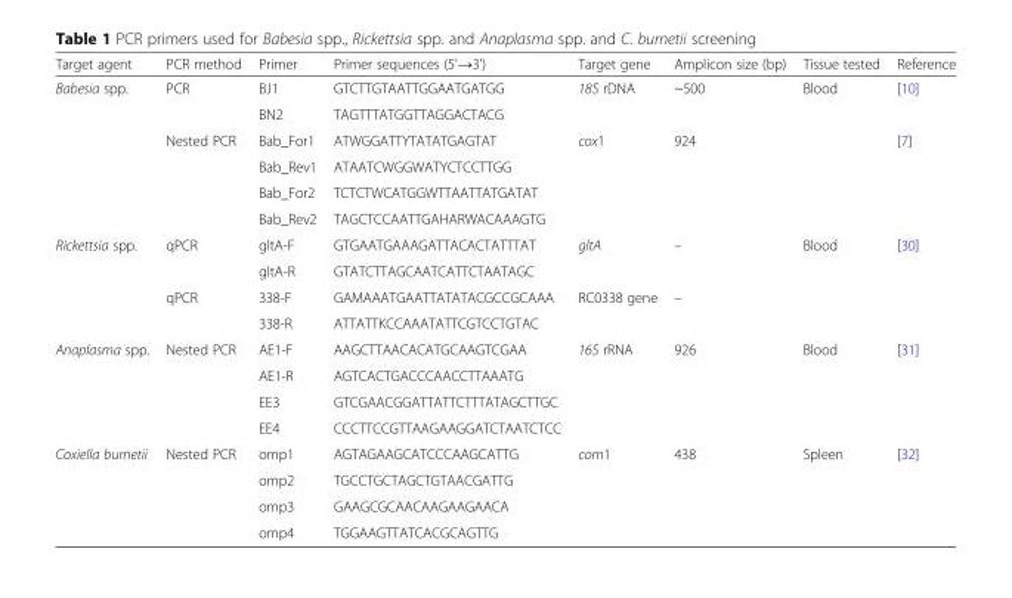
<table><thead><tr><td>Target agent</td><td>PCR method</td><td>Primer</td><td>Primer sequences (5&#x27;→3&#x27;)</td><td>Target gene</td><td>Amplicon size (bp)</td><td>Tissue tested</td><td>Reference</td></tr></thead><tbody><tr><td rowspan="6">Babesia spp.</td><td rowspan="2">PCR</td><td>BJ1</td><td>GTCTTGTAATTGGAATGATGG</td><td rowspan="2">18S rDNA</td><td rowspan="2">~500</td><td rowspan="6">Blood</td><td rowspan="2">[10]</td></tr><tr><td>BN2</td><td>TAGTTTATGGTTAGGACTACG</td></tr><tr><td rowspan="4">Nested PCR</td><td>Bab_For1</td><td>ATWGGATTYTATATGAGTAT</td><td rowspan="4">cox1</td><td rowspan="4">924</td><td rowspan="4">[7]</td></tr><tr><td>Bab_Rev1</td><td>ATAATCWGGWATYCTCCTTGG</td></tr><tr><td>Bab_For2</td><td>TCTCTWCATGGWTTAATTATGATAT</td></tr><tr><td>Bab_Rev2</td><td>TAGCTCCAATTGAHARWACAAAGTG</td></tr><tr><td rowspan="4">Rickettsia spp.</td><td rowspan="2">qPCR</td><td>gltA-F</td><td>GTGAATGAAAGATTACACTATTTAT</td><td rowspan="2">gltA</td><td rowspan="2">–</td><td rowspan="4">Blood</td><td rowspan="4">[30]</td></tr><tr><td>gltA-R</td><td>GTATCTTAGCAATCATTCTAATAGC</td></tr><tr><td rowspan="2">qPCR</td><td>338-F</td><td>GAMAAATGAATTATATACGCCGCAAA</td><td rowspan="2">RC0338 gene</td><td rowspan="2">–</td></tr><tr><td>338-R</td><td>ATTATTKCCAAATATTCGTCCTGTAC</td></tr><tr><td rowspan="4">Anaplasma spp.</td><td rowspan="4">Nested PCR</td><td>AE1-F</td><td>AAGCTTAACACATGCAAGTCGAA</td><td rowspan="4">16S rRNA</td><td rowspan="4">926</td><td rowspan="4">Blood</td><td rowspan="4">[31]</td></tr><tr><td>AE1-R</td><td>AGTCACTGACCCAACCTTAAATG</td></tr><tr><td>EE3</td><td>GTCGAACGGATTATTCTTTATAGCTTGC</td></tr><tr><td>EE4</td><td>CCCTTCCGTTAAGAAGGATCTAATCTCC</td></tr><tr><td rowspan="4">Coxiella burnetii</td><td rowspan="4">Nested PCR</td><td>omp1</td><td>AGTAGAAGCATCCCAAGCATTG</td><td rowspan="4">com1</td><td rowspan="4">438</td><td rowspan="4">Spleen</td><td rowspan="4">[32]</td></tr><tr><td>omp2</td><td>TGCCTGCTAGCTGTAACGATTG</td></tr><tr><td>omp3</td><td>GAAGCGCAACAAGAAGAACA</td></tr><tr><td>omp4</td><td>TGGAAGTTATCACGCAGTTG</td></tr></tbody></table>